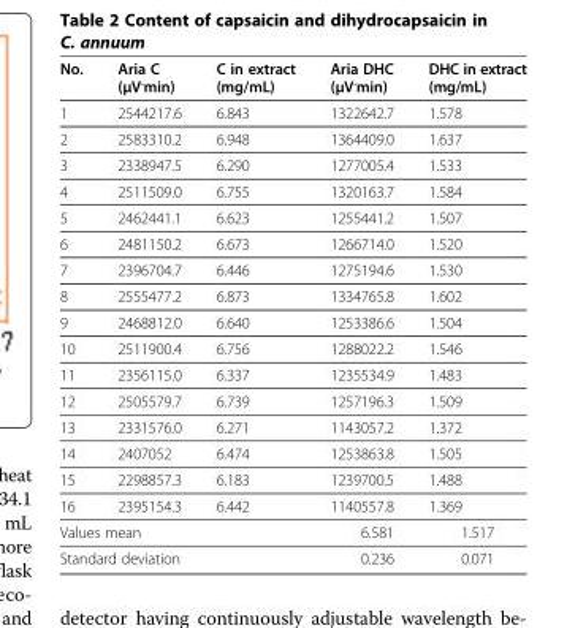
<table><thead><tr><td>No.</td><td>Aria C (μV<sup>.</sup>min)</td><td>C in extract (mg/mL)</td><td>Aria DHC (μV<sup>.</sup>min)</td><td>DHC in extract (mg/mL)</td></tr></thead><tbody><tr><td>1</td><td>2544217.6</td><td>6.843</td><td>1322642.7</td><td>1.578</td></tr><tr><td>2</td><td>2583310.2</td><td>6.948</td><td>1364409.0</td><td>1.637</td></tr><tr><td>3</td><td>2338947.5</td><td>6.290</td><td>1277005.4</td><td>1.533</td></tr><tr><td>4</td><td>2511509.0</td><td>6.755</td><td>1320163.7</td><td>1.584</td></tr><tr><td>5</td><td>2462441.1</td><td>6.623</td><td>1255441.2</td><td>1.507</td></tr><tr><td>6</td><td>2481150.2</td><td>6.673</td><td>1266714.0</td><td>1.520</td></tr><tr><td>7</td><td>2396704.7</td><td>6.446</td><td>1275194.6</td><td>1.530</td></tr><tr><td>8</td><td>2555477.2</td><td>6.873</td><td>1334765.8</td><td>1.602</td></tr><tr><td>9</td><td>2468812.0</td><td>6.640</td><td>1253386.6</td><td>1.504</td></tr><tr><td>10</td><td>2511900.4</td><td>6.756</td><td>1288022.2</td><td>1.546</td></tr><tr><td>11</td><td>2356115.0</td><td>6.337</td><td>1235534.9</td><td>1.483</td></tr><tr><td>12</td><td>2505579.7</td><td>6.739</td><td>1257196.3</td><td>1.509</td></tr><tr><td>13</td><td>2331576.0</td><td>6.271</td><td>1143057.2</td><td>1.372</td></tr><tr><td>14</td><td>2407052</td><td>6.474</td><td>1253863.8</td><td>1.505</td></tr><tr><td>15</td><td>2298857.3</td><td>6.183</td><td>1239700.5</td><td>1.488</td></tr><tr><td>16</td><td>2395154.3</td><td>6.442</td><td>1140557.8</td><td>1.369</td></tr><tr><td colspan="3">Values mean</td><td>6.581</td><td>1.517</td></tr><tr><td colspan="3">Standard deviation</td><td>0.236</td><td>0.071</td></tr></tbody></table>